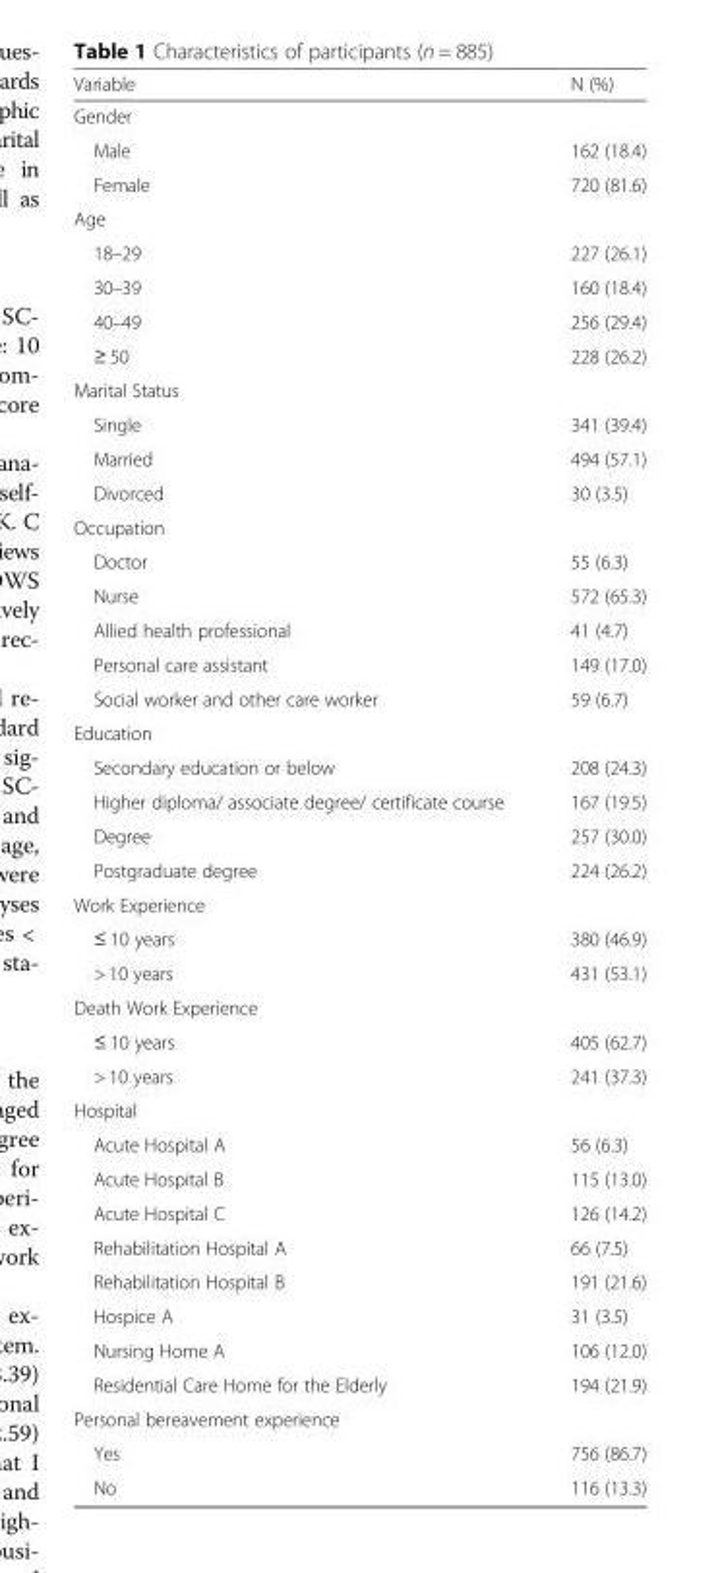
<table><thead><tr><td>Variable</td><td>N (%)</td></tr></thead><tbody><tr><td colspan="2">Gender</td></tr><tr><td>Male</td><td>162 (18.4)</td></tr><tr><td>Female</td><td>720 (81.6)</td></tr><tr><td colspan="2">Age</td></tr><tr><td>18–29</td><td>227 (26.1)</td></tr><tr><td>30–39</td><td>160 (18.4)</td></tr><tr><td>40–49</td><td>256 (29.4)</td></tr><tr><td>≥ 50</td><td>228 (26.2)</td></tr><tr><td colspan="2">Marital Status</td></tr><tr><td>Single</td><td>341 (39.4)</td></tr><tr><td>Married</td><td>494 (57.1)</td></tr><tr><td>Divorced</td><td>30 (3.5)</td></tr><tr><td colspan="2">Occupation</td></tr><tr><td>Doctor</td><td>55 (6.3)</td></tr><tr><td>Nurse</td><td>572 (65.3)</td></tr><tr><td>Allied health professional</td><td>41 (4.7)</td></tr><tr><td>Personal care assistant</td><td>149 (17.0)</td></tr><tr><td>Social worker and other care worker</td><td>59 (6.7)</td></tr><tr><td colspan="2">Education</td></tr><tr><td>Secondary education or below</td><td>208 (24.3)</td></tr><tr><td>Higher diploma/ associate degree/ certificate course</td><td>167 (19.5)</td></tr><tr><td>Degree</td><td>257 (30.0)</td></tr><tr><td>Postgraduate degree</td><td>224 (26.2)</td></tr><tr><td colspan="2">Work Experience</td></tr><tr><td>≤ 10 years</td><td>380 (46.9)</td></tr><tr><td>&gt; 10 years</td><td>431 (53.1)</td></tr><tr><td colspan="2">Death Work Experience</td></tr><tr><td>≤ 10 years</td><td>405 (62.7)</td></tr><tr><td>&gt; 10 years</td><td>241 (37.3)</td></tr><tr><td colspan="2">Hospital</td></tr><tr><td>Acute Hospital A</td><td>56 (6.3)</td></tr><tr><td>Acute Hospital B</td><td>115 (13.0)</td></tr><tr><td>Acute Hospital C</td><td>126 (14.2)</td></tr><tr><td>Rehabilitation Hospital A</td><td>66 (7.5)</td></tr><tr><td>Rehabilitation Hospital B</td><td>191 (21.6)</td></tr><tr><td>Hospice A</td><td>31 (3.5)</td></tr><tr><td>Nursing Home A</td><td>106 (12.0)</td></tr><tr><td>Residential Care Home for the Elderly</td><td>194 (21.9)</td></tr><tr><td colspan="2">Personal bereavement experience</td></tr><tr><td>Yes</td><td>756 (86.7)</td></tr><tr><td>No</td><td>116 (13.3)</td></tr></tbody></table>